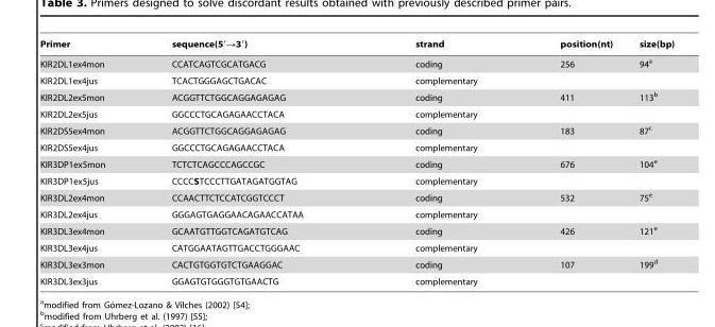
<table><thead><tr><td>Primer</td><td>sequence(5′→3′)</td><td>strand</td><td>position(nt)</td><td>size(bp)</td></tr></thead><tbody><tr><td>KIR2DL1ex4mon</td><td>CCATCAGTCGCATGACG</td><td>coding</td><td>256</td><td>94<sup>a</sup></td></tr><tr><td>KIR2DL1ex4jus</td><td>TCACTGGGAGCTGACAC</td><td>complementary</td><td></td><td></td></tr><tr><td>KIR2DL2ex5mon</td><td>ACGGTTCTGGCAGGAGAGAG</td><td>coding</td><td>411</td><td>113<sup>b</sup></td></tr><tr><td>KIR2DL2ex5jus</td><td>GGCCCTGCAGAGAACCTACA</td><td>complementary</td><td></td><td></td></tr><tr><td>KIR2DS5ex4mon</td><td>ACGGTTCTGGCAGGAGAGAG</td><td>coding</td><td>183</td><td>87<sup>c</sup></td></tr><tr><td>KIR2DS5ex4jus</td><td>GGCCCTGCAGAGAACCTACA</td><td>complementary</td><td></td><td></td></tr><tr><td>KIR3DP1ex5mon</td><td>TCTCTCAGCCCAGCCGC</td><td>coding</td><td>676</td><td>104<sup>e</sup></td></tr><tr><td>KIR3DP1ex5jus</td><td>CCCCSTCCCTTGATAGATGGTAG</td><td>complementary</td><td></td><td></td></tr><tr><td>KIR3DL2ex4mon</td><td>CCAACTTCTCCATCGGTCCCT</td><td>coding</td><td>532</td><td>75<sup>e</sup></td></tr><tr><td>KIR3DL2ex4jus</td><td>GGGAGTGAGGAACAGAACCATAA</td><td>complementary</td><td></td><td></td></tr><tr><td>KIR3DL3ex4mon</td><td>GCAATGTTGGTCAGATGTCAG</td><td>coding</td><td>426</td><td>121<sup>e</sup></td></tr><tr><td>KIR3DL3ex4jus</td><td>CATGGAATAGTTGACCTGGGAAC</td><td>complementary</td><td></td><td></td></tr><tr><td>KIR3DL3ex3mon</td><td>CACTGTGGTGTCTGAAGGAC</td><td>coding</td><td>107</td><td>199<sup>d</sup></td></tr><tr><td>KIR3DL3ex3jus</td><td>GGAGTGTGGGTGTGAACTG</td><td>complementary</td><td></td><td></td></tr></tbody></table>